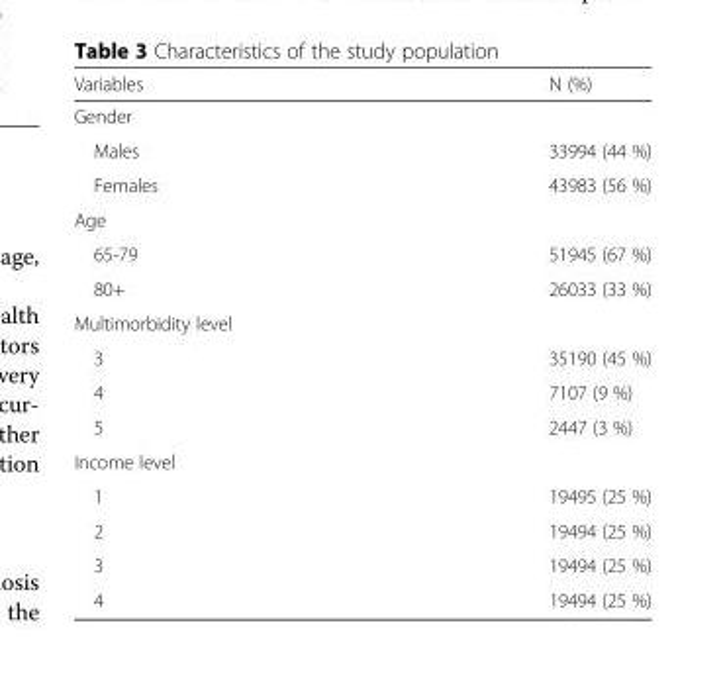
<table><thead><tr><td>Variables</td><td>N (%)</td></tr></thead><tbody><tr><td colspan="2">Gender</td></tr><tr><td>Males</td><td>33994 (44 %)</td></tr><tr><td>Females</td><td>43983 (56 %)</td></tr><tr><td colspan="2">Age</td></tr><tr><td>65-79</td><td>51945 (67 %)</td></tr><tr><td>80+</td><td>26033 (33 %)</td></tr><tr><td colspan="2">Multimorbidity level</td></tr><tr><td>3</td><td>35190 (45 %)</td></tr><tr><td>4</td><td>7107 (9 %)</td></tr><tr><td>5</td><td>2447 (3 %)</td></tr><tr><td colspan="2">Income level</td></tr><tr><td>1</td><td>19495 (25 %)</td></tr><tr><td>2</td><td>19494 (25 %)</td></tr><tr><td>3</td><td>19494 (25 %)</td></tr><tr><td>4</td><td>19494 (25 %)</td></tr></tbody></table>